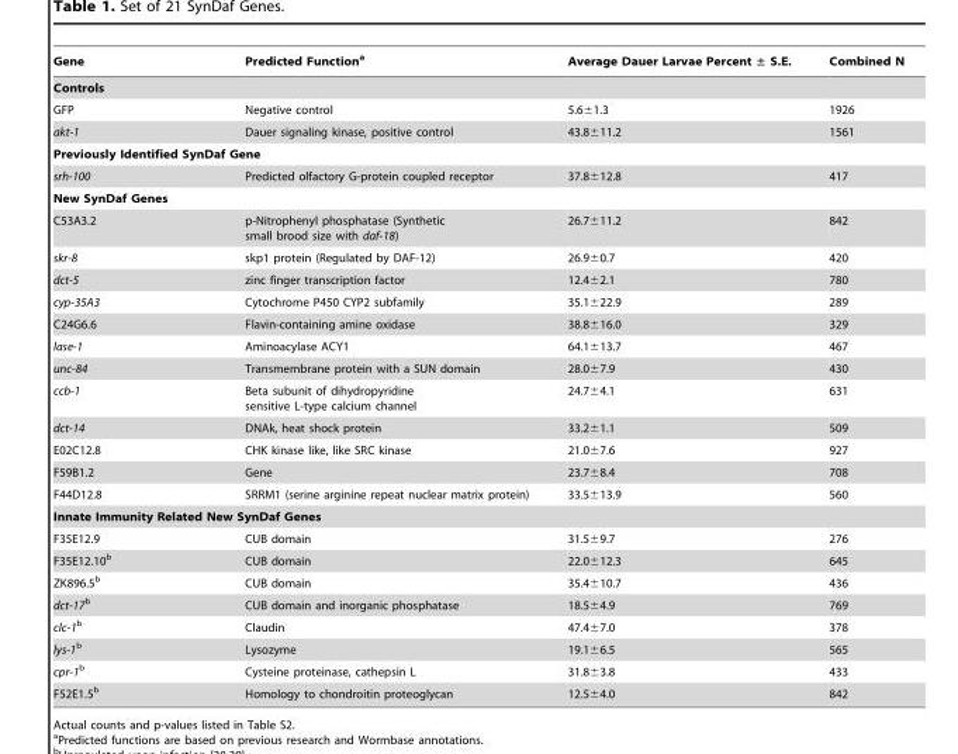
<table><thead><tr><td>Gene</td><td>Predicted Function<sup>a</sup></td><td>Average Dauer Larvae Percent ± S.E.</td><td>Combined N</td></tr></thead><tbody><tr><td colspan="4">Controls</td></tr><tr><td>GFP</td><td>Negative control</td><td>5.6±1.3</td><td>1926</td></tr><tr><td>akt-1</td><td>Dauer signaling kinase, positive control</td><td>43.8±11.2</td><td>1561</td></tr><tr><td colspan="4">Previously Identified SynDaf Gene</td></tr><tr><td>srh-100</td><td>Predicted olfactory G-protein coupled receptor</td><td>37.8±12.8</td><td>417</td></tr><tr><td colspan="4">New SynDaf Genes</td></tr><tr><td>C53A3.2</td><td>p-Nitrophenyl phosphatase (Synthetic small brood size with daf-18)</td><td>26.7±11.2</td><td>842</td></tr><tr><td>skr-8</td><td>skp1 protein (Regulated by DAF-12)</td><td>26.9±0.7</td><td>420</td></tr><tr><td>dct-5</td><td>zinc finger transcription factor</td><td>12.4±2.1</td><td>780</td></tr><tr><td>cyp-35A3</td><td>Cytochrome P450 CYP2 subfamily</td><td>35.1±22.9</td><td>289</td></tr><tr><td>C24G6.6</td><td>Flavin-containing amine oxidase</td><td>38.8±16.0</td><td>329</td></tr><tr><td>lase-1</td><td>Aminoacylase ACY1</td><td>64.1±13.7</td><td>467</td></tr><tr><td>unc-84</td><td>Transmembrane protein with a SUN domain</td><td>28.0±7.9</td><td>430</td></tr><tr><td>ccb-1</td><td>Beta subunit of dihydropyridine sensitive L-type calcium channel</td><td>24.7±4.1</td><td>631</td></tr><tr><td>dct-14</td><td>DNAk, heat shock protein</td><td>33.2±1.1</td><td>509</td></tr><tr><td>E02C12.8</td><td>CHK kinase like, like SRC kinase</td><td>21.0±7.6</td><td>927</td></tr><tr><td>F59B1.2</td><td>Gene</td><td>23.7±8.4</td><td>708</td></tr><tr><td>F44D12.8</td><td>SRRM1 (serine arginine repeat nuclear matrix protein)</td><td>33.5±13.9</td><td>560</td></tr><tr><td colspan="4">Innate Immunity Related New SynDaf Genes</td></tr><tr><td>F35E12.9</td><td>CUB domain</td><td>31.5±9.7</td><td>276</td></tr><tr><td>F35E12.10<sup>b</sup></td><td>CUB domain</td><td>22.0±12.3</td><td>645</td></tr><tr><td>ZK896.5<sup>b</sup></td><td>CUB domain</td><td>35.4±10.7</td><td>436</td></tr><tr><td>dct-17b</td><td>CUB domain and inorganic phosphatase</td><td>18.5±4.9</td><td>769</td></tr><tr><td>clc-1b</td><td>Claudin</td><td>47.4±7.0</td><td>378</td></tr><tr><td>lys-1b</td><td>Lysozyme</td><td>19.1±6.5</td><td>565</td></tr><tr><td>cpr-1b</td><td>Cysteine proteinase, cathepsin L</td><td>31.8±3.8</td><td>433</td></tr><tr><td>F52E1.5<sup>b</sup></td><td>Homology to chondroitin proteoglycan</td><td>12.5±4.0</td><td>842</td></tr></tbody></table>